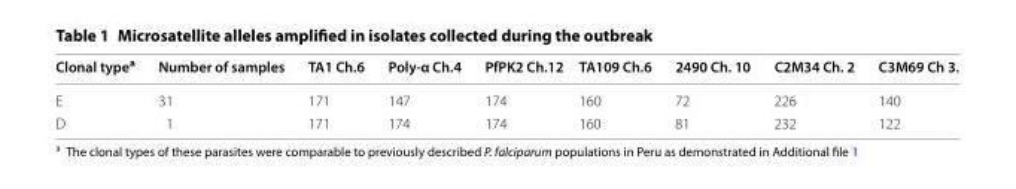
<table><thead><tr><td>Clonal type<sup>a</sup></td><td>Number of samples</td><td>TA1 Ch.6</td><td>Poly-α Ch.4</td><td>PfPK2 Ch.12</td><td>TA109 Ch.6</td><td>2490 Ch. 10</td><td>C2M34 Ch. 2</td><td>C3M69 Ch 3.</td></tr></thead><tbody><tr><td>E</td><td>31</td><td>171</td><td>147</td><td>174</td><td>160</td><td>72</td><td>226</td><td>140</td></tr><tr><td>D</td><td>1</td><td>171</td><td>174</td><td>174</td><td>160</td><td>81</td><td>232</td><td>122</td></tr></tbody></table>